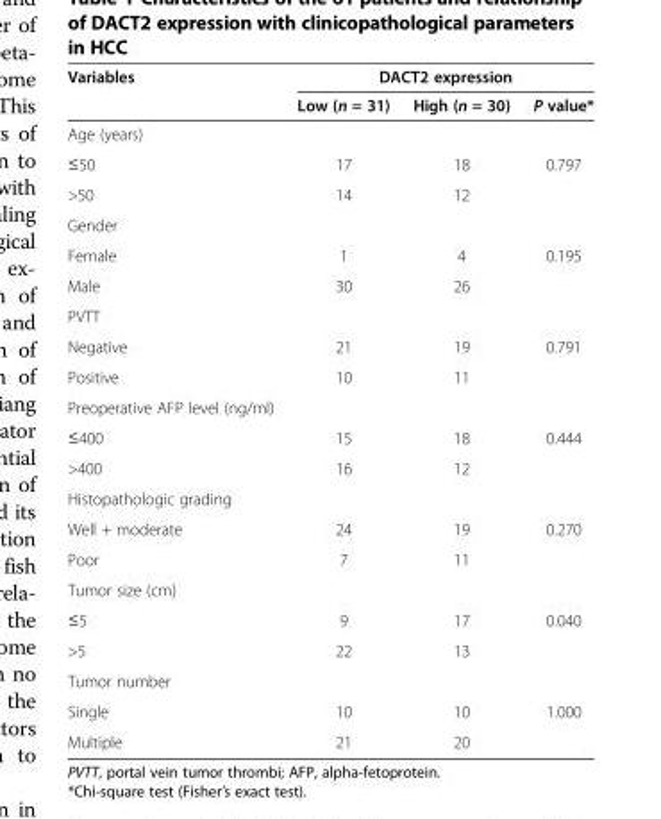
<table><thead><tr><td rowspan="2">Variables</td><td colspan="3">DACT2 expression</td></tr><tr><td>Low (n = 31)</td><td>High (n = 30)</td><td>P value*</td></tr></thead><tbody><tr><td colspan="4">Age (years)</td></tr><tr><td>≤50</td><td>17</td><td>18</td><td>0.797</td></tr><tr><td>&gt;50</td><td>14</td><td>12</td><td></td></tr><tr><td colspan="4">Gender</td></tr><tr><td>Female</td><td>1</td><td>4</td><td>0.195</td></tr><tr><td>Male</td><td>30</td><td>26</td><td></td></tr><tr><td colspan="4">PVTT</td></tr><tr><td>Negative</td><td>21</td><td>19</td><td>0.791</td></tr><tr><td>Positive</td><td>10</td><td>11</td><td></td></tr><tr><td colspan="4">Preoperative AFP level (ng/ml)</td></tr><tr><td>≤400</td><td>15</td><td>18</td><td>0.444</td></tr><tr><td>&gt;400</td><td>16</td><td>12</td><td></td></tr><tr><td colspan="4">Histopathologic grading</td></tr><tr><td>Well + moderate</td><td>24</td><td>19</td><td>0.270</td></tr><tr><td>Poor</td><td>7</td><td>11</td><td></td></tr><tr><td colspan="4">Tumor size (cm)</td></tr><tr><td>≤5</td><td>9</td><td>17</td><td>0.040</td></tr><tr><td>&gt;5</td><td>22</td><td>13</td><td></td></tr><tr><td colspan="4">Tumor number</td></tr><tr><td>Single</td><td>10</td><td>10</td><td>1.000</td></tr><tr><td>Multiple</td><td>21</td><td>20</td><td></td></tr></tbody></table>